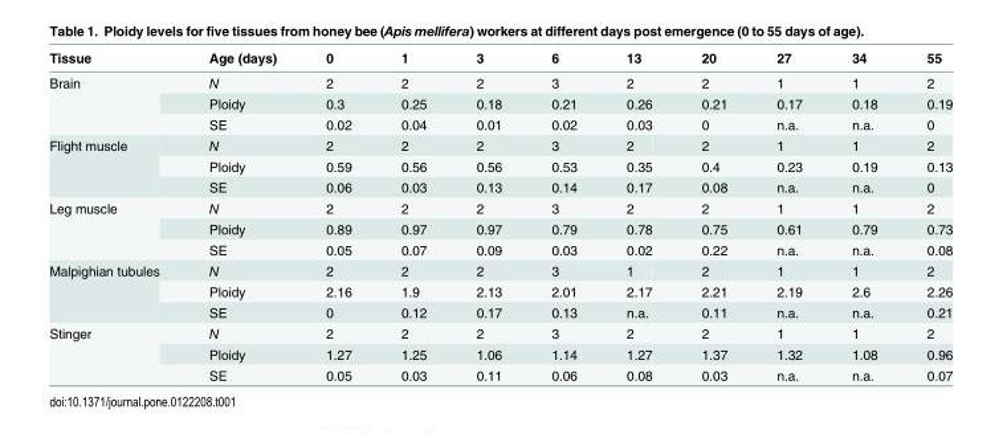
<table><thead><tr><td>Tissue</td><td>Age (days)</td><td>0</td><td>1</td><td>3</td><td>6</td><td>13</td><td>20</td><td>27</td><td>34</td><td>55</td></tr></thead><tbody><tr><td rowspan="3">Brain</td><td>N</td><td>2</td><td>2</td><td>2</td><td>3</td><td>2</td><td>2</td><td>1</td><td>1</td><td>2</td></tr><tr><td>Ploidy</td><td>0.3</td><td>0.25</td><td>0.18</td><td>0.21</td><td>0.26</td><td>0.21</td><td>0.17</td><td>0.18</td><td>0.19</td></tr><tr><td>SE</td><td>0.02</td><td>0.04</td><td>0.01</td><td>0.02</td><td>0.03</td><td>0</td><td>n.a.</td><td>n.a.</td><td>0</td></tr><tr><td rowspan="3">Flight muscle</td><td>N</td><td>2</td><td>2</td><td>2</td><td>3</td><td>2</td><td>2</td><td>1</td><td>1</td><td>2</td></tr><tr><td>Ploidy</td><td>0.59</td><td>0.56</td><td>0.56</td><td>0.53</td><td>0.35</td><td>0.4</td><td>0.23</td><td>0.19</td><td>0.13</td></tr><tr><td>SE</td><td>0.06</td><td>0.03</td><td>0.13</td><td>0.14</td><td>0.17</td><td>0.08</td><td>n.a.</td><td>n.a.</td><td>0</td></tr><tr><td rowspan="3">Leg muscle</td><td>N</td><td>2</td><td>2</td><td>2</td><td>3</td><td>2</td><td>2</td><td>1</td><td>1</td><td>2</td></tr><tr><td>Ploidy</td><td>0.89</td><td>0.97</td><td>0.97</td><td>0.79</td><td>0.78</td><td>0.75</td><td>0.61</td><td>0.79</td><td>0.73</td></tr><tr><td>SE</td><td>0.05</td><td>0.07</td><td>0.09</td><td>0.03</td><td>0.02</td><td>0.22</td><td>n.a.</td><td>n.a.</td><td>0.08</td></tr><tr><td rowspan="3">Malpighian tubules</td><td>N</td><td>2</td><td>2</td><td>2</td><td>3</td><td>1</td><td>2</td><td>1</td><td>1</td><td>2</td></tr><tr><td>Ploidy</td><td>2.16</td><td>1.9</td><td>2.13</td><td>2.01</td><td>2.17</td><td>2.21</td><td>2.19</td><td>2.6</td><td>2.26</td></tr><tr><td>SE</td><td>0</td><td>0.12</td><td>0.17</td><td>0.13</td><td>n.a.</td><td>0.11</td><td>n.a.</td><td>n.a.</td><td>0.21</td></tr><tr><td rowspan="3">Stinger</td><td>N</td><td>2</td><td>2</td><td>2</td><td>3</td><td>2</td><td>2</td><td>1</td><td>1</td><td>2</td></tr><tr><td>Ploidy</td><td>1.27</td><td>1.25</td><td>1.06</td><td>1.14</td><td>1.27</td><td>1.37</td><td>1.32</td><td>1.08</td><td>0.96</td></tr><tr><td>SE</td><td>0.05</td><td>0.03</td><td>0.11</td><td>0.06</td><td>0.08</td><td>0.03</td><td>n.a.</td><td>n.a.</td><td>0.07</td></tr></tbody></table>